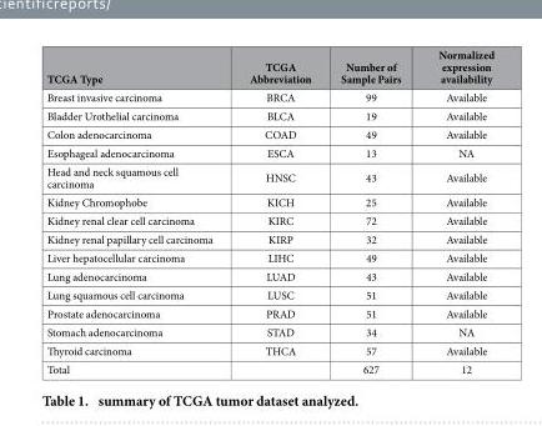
<table><thead><tr><td>TCGA Type</td><td>TCGA Abbreviation</td><td>Number of Sample Pairs</td><td>Normalized expression availability</td></tr></thead><tbody><tr><td>Breast invasive carcinoma</td><td>BRCA</td><td>99</td><td>Available</td></tr><tr><td>Bladder Urothelial carcinoma</td><td>BLCA</td><td>19</td><td>Available</td></tr><tr><td>Colon adenocarcinoma</td><td>COAD</td><td>49</td><td>Available</td></tr><tr><td>Esophageal adenocarcinoma</td><td>ESCA</td><td>13</td><td>NA</td></tr><tr><td>Head and neck squamous cell carcinoma</td><td>HNSC</td><td>43</td><td>Available</td></tr><tr><td>Kidney Chromophobe</td><td>KICH</td><td>25</td><td>Available</td></tr><tr><td>Kidney renal clear cell carcinoma</td><td>KIRC</td><td>72</td><td>Available</td></tr><tr><td>Kidney renal papillary cell carcinoma</td><td>KIRP</td><td>32</td><td>Available</td></tr><tr><td>Liver hepatocellular carcinoma</td><td>LIHC</td><td>49</td><td>Available</td></tr><tr><td>Lung adenocarcinoma</td><td>LUAD</td><td>43</td><td>Available</td></tr><tr><td>Lung squamous cell carcinoma</td><td>LUSC</td><td>51</td><td>Available</td></tr><tr><td>Prostate adenocarcinoma</td><td>PRAD</td><td>51</td><td>Available</td></tr><tr><td>Stomach adenocarcinoma</td><td>STAD</td><td>34</td><td>NA</td></tr><tr><td>Thyroid carcinoma</td><td>THCA</td><td>57</td><td>Available</td></tr><tr><td>Total</td><td></td><td>627</td><td>12</td></tr></tbody></table>